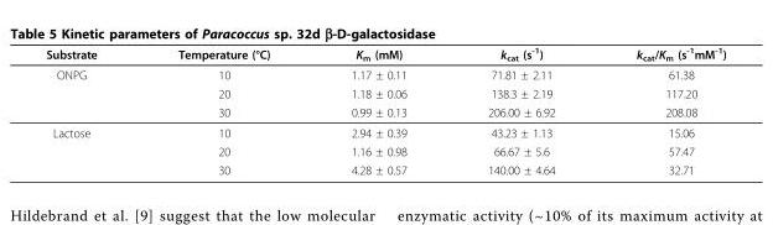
<table><thead><tr><td>Substrate</td><td>Temperature (°C)</td><td>K<sub>m</sub> (mM)</td><td>k<sub>cat</sub> (s<sup>-1</sup>)</td><td>k<sub>cat</sub>/K<sub>m</sub> (s<sup>-1</sup>mM<sup>-1</sup>)</td></tr></thead><tbody><tr><td rowspan="3">ONPG</td><td>10</td><td>1.17 ± 0.11</td><td>71.81 ± 2.11</td><td>61.38</td></tr><tr><td>20</td><td>1.18 ± 0.06</td><td>138.3 ± 2.19</td><td>117.20</td></tr><tr><td>30</td><td>0.99 ± 0.13</td><td>206.00 ± 6.92</td><td>208.08</td></tr><tr><td rowspan="3">Lactose</td><td>10</td><td>2.94 ± 0.39</td><td>43.23 ± 1.13</td><td>15.06</td></tr><tr><td>20</td><td>1.16 ± 0.98</td><td>66.67 ± 5.6</td><td>57.47</td></tr><tr><td>30</td><td>4.28 ± 0.57</td><td>140.00 ± 4.64</td><td>32.71</td></tr></tbody></table>